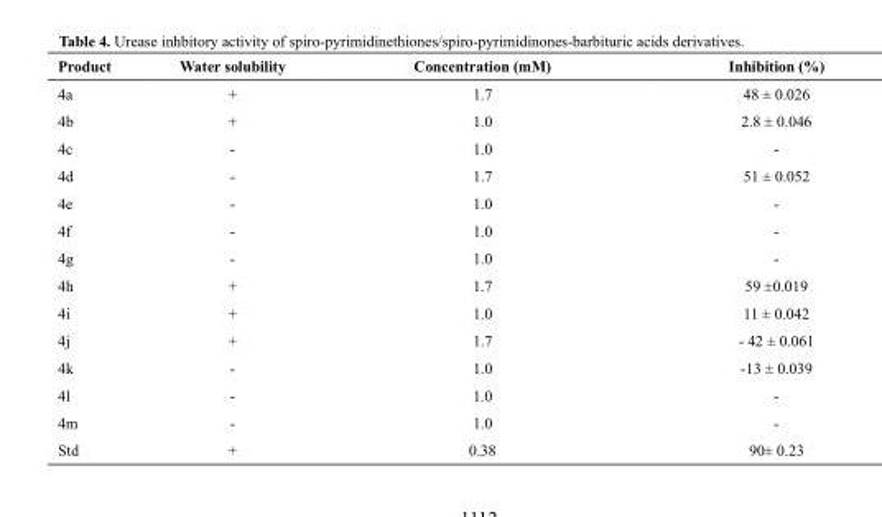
<table><thead><tr><td>Product</td><td>Water solubility</td><td>Concentration (mM)</td><td>Inhibition (%)</td></tr></thead><tbody><tr><td>4a</td><td>+</td><td>1.7</td><td>48 ± 0.026</td></tr><tr><td>4b</td><td>+</td><td>1.0</td><td>2.8 ± 0.046</td></tr><tr><td>4c</td><td>-</td><td>1.0</td><td>-</td></tr><tr><td>4d</td><td>-</td><td>1.7</td><td>51 ± 0.052</td></tr><tr><td>4e</td><td>-</td><td>1.0</td><td>-</td></tr><tr><td>4f</td><td>-</td><td>1.0</td><td>-</td></tr><tr><td>4g</td><td>-</td><td>1.0</td><td>-</td></tr><tr><td>4h</td><td>+</td><td>1.7</td><td>59 ±0.019</td></tr><tr><td>4i</td><td>+</td><td>1.0</td><td>11 ± 0.042</td></tr><tr><td>4j</td><td>+</td><td>1.7</td><td>- 42 ± 0.061</td></tr><tr><td>4k</td><td>-</td><td>1.0</td><td>-13 ± 0.039</td></tr><tr><td>4l</td><td>-</td><td>1.0</td><td>-</td></tr><tr><td>4m</td><td>-</td><td>1.0</td><td>-</td></tr><tr><td>Std</td><td>+</td><td>0.38</td><td>90± 0.23</td></tr></tbody></table>